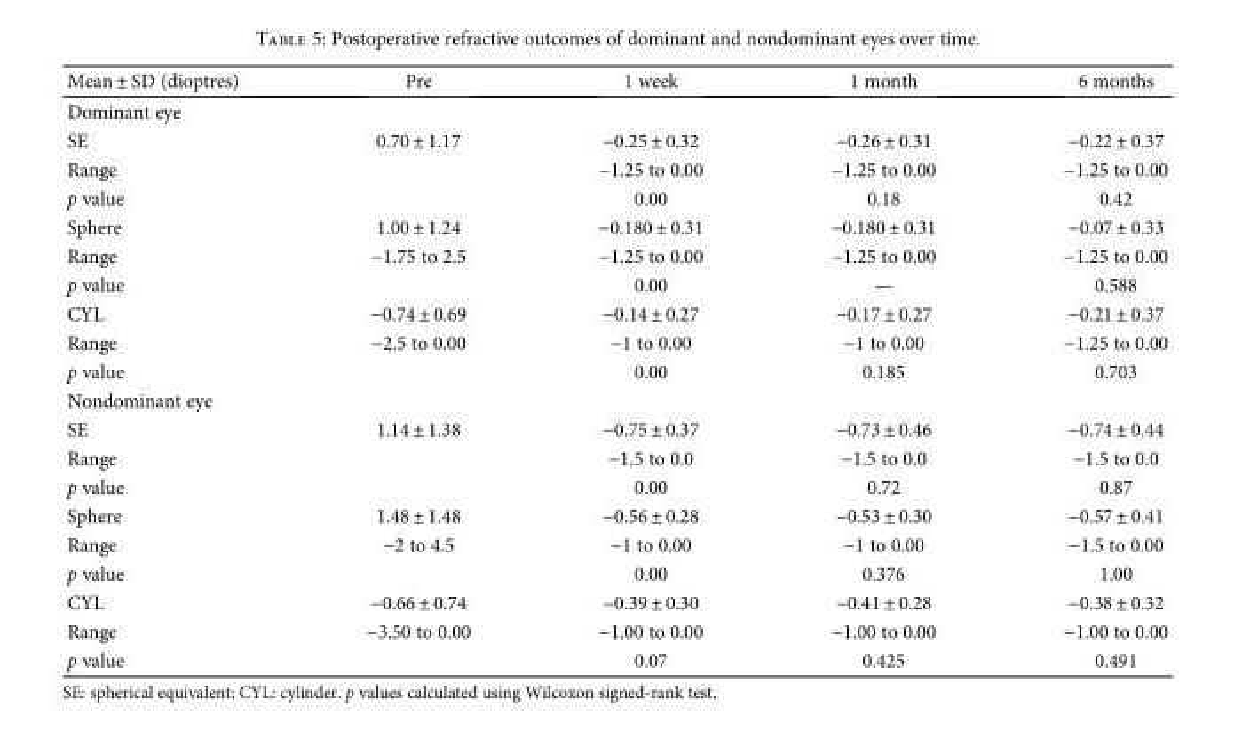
<table><thead><tr><td>Mean ± SD (dioptres)</td><td>Pre</td><td>1 week</td><td>1 month</td><td>6 months</td></tr></thead><tbody><tr><td colspan="5">Dominant eye</td></tr><tr><td>SE</td><td>0.70 ± 1.17</td><td>−0.25 ± 0.32</td><td>−0.26 ± 0.31</td><td>−0.22 ± 0.37</td></tr><tr><td>Range</td><td></td><td>−1.25 to 0.00</td><td>−1.25 to 0.00</td><td>−1.25 to 0.00</td></tr><tr><td>p value</td><td></td><td>0.00</td><td>0.18</td><td>0.42</td></tr><tr><td>Sphere</td><td>1.00 ± 1.24</td><td>−0.180 ± 0.31</td><td>−0.180 ± 0.31</td><td>−0.07 ± 0.33</td></tr><tr><td>Range</td><td>−1.75 to 2.5</td><td>−1.25 to 0.00</td><td>−1.25 to 0.00</td><td>−1.25 to 0.00</td></tr><tr><td>p value</td><td></td><td>0.00</td><td>—</td><td>0.588</td></tr><tr><td>CYL</td><td>−0.74 ± 0.69</td><td>−0.14 ± 0.27</td><td>−0.17 ± 0.27</td><td>−0.21 ± 0.37</td></tr><tr><td>Range</td><td>−2.5 to 0.00</td><td>−1 to 0.00</td><td>−1 to 0.00</td><td>−1.25 to 0.00</td></tr><tr><td>p value</td><td></td><td>0.00</td><td>0.185</td><td>0.703</td></tr><tr><td colspan="5">Nondominant eye</td></tr><tr><td>SE</td><td>1.14 ± 1.38</td><td>−0.75 ± 0.37</td><td>−0.73 ± 0.46</td><td>−0.74 ± 0.44</td></tr><tr><td>Range</td><td></td><td>−1.5 to 0.0</td><td>−1.5 to 0.0</td><td>−1.5 to 0.0</td></tr><tr><td>p value</td><td></td><td>0.00</td><td>0.72</td><td>0.87</td></tr><tr><td>Sphere</td><td>1.48 ± 1.48</td><td>−0.56 ± 0.28</td><td>−0.53 ± 0.30</td><td>−0.57 ± 0.41</td></tr><tr><td>Range</td><td>−2 to 4.5</td><td>−1 to 0.00</td><td>−1 to 0.00</td><td>−1.5 to 0.00</td></tr><tr><td>p value</td><td></td><td>0.00</td><td>0.376</td><td>1.00</td></tr><tr><td>CYL</td><td>−0.66 ± 0.74</td><td>−0.39 ± 0.30</td><td>−0.41 ± 0.28</td><td>−0.38 ± 0.32</td></tr><tr><td>Range</td><td>−3.50 to 0.00</td><td>−1.00 to 0.00</td><td>−1.00 to 0.00</td><td>−1.00 to 0.00</td></tr><tr><td>p value</td><td></td><td>0.07</td><td>0.425</td><td>0.491</td></tr></tbody></table>